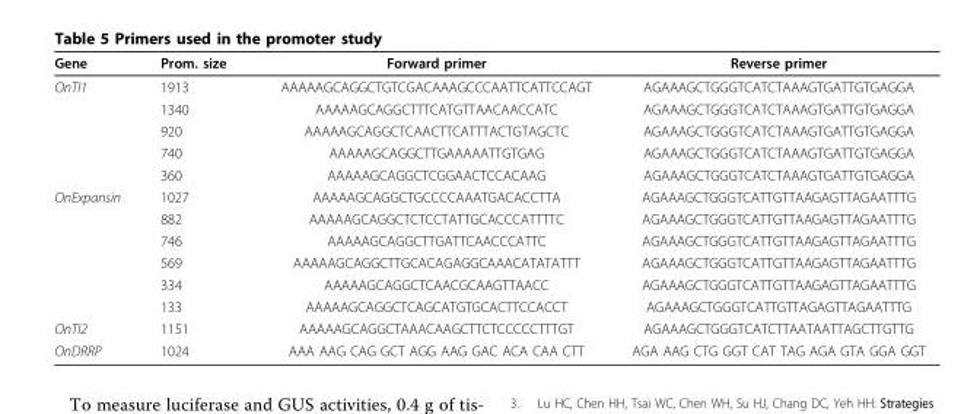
<table><thead><tr><td>Gene</td><td>Prom. size</td><td>Forward primer</td><td>Reverse primer</td></tr></thead><tbody><tr><td rowspan="5">OnTI1</td><td>1913</td><td>AAAAAGCAGGCTGTCGACAAAGCCCAATTCATTCCAGT</td><td>AGAAAGCTGGGTCATCTAAAGTGATTGTGAGGA</td></tr><tr><td>1340</td><td>AAAAAGCAGGCTTTCATGTTAACAACCATC</td><td>AGAAAGCTGGGTCATCTAAAGTGATTGTGAGGA</td></tr><tr><td>920</td><td>AAAAAGCAGGCTCAACTTCATTTACTGTAGCTC</td><td>AGAAAGCTGGGTCATCTAAAGTGATTGTGAGGA</td></tr><tr><td>740</td><td>AAAAAGCAGGCTTGAAAAATTGTGAG</td><td>AGAAAGCTGGGTCATCTAAAGTGATTGTGAGGA</td></tr><tr><td>360</td><td>AAAAAGCAGGCTCGGAACTCCACAAG</td><td>AGAAAGCTGGGTCATCTAAAGTGATTGTGAGGA</td></tr><tr><td rowspan="6">OnExpansin</td><td>1027</td><td>AAAAAGCAGGCTGCCCCAAATGACACCTTA</td><td>AGAAAGCTGGGTCATTGTTAAGAGTTAGAATTTG</td></tr><tr><td>882</td><td>AAAAAGCAGGCTCTCCTATTGCACCCATTTTC</td><td>AGAAAGCTGGGTCATTGTTAAGAGTTAGAATTTG</td></tr><tr><td>746</td><td>AAAAAGCAGGCTTGATTCAACCCATTC</td><td>AGAAAGCTGGGTCATTGTTAAGAGTTAGAATTTG</td></tr><tr><td>569</td><td>AAAAAGCAGGCTTGCACAGAGGCAAACATATATTT</td><td>AGAAAGCTGGGTCATTGTTAAGAGTTAGAATTTG</td></tr><tr><td>334</td><td>AAAAAGCAGGCTCAACGCAAGTTAACC</td><td>AGAAAGCTGGGTCATTGTTAAGAGTTAGAATTTG</td></tr><tr><td>133</td><td>AAAAAGCAGGCTCAGCATGTGCACTTCCACCT</td><td>AGAAAGCTGGGTCATTGTTAGAGTTAGAATTTG</td></tr><tr><td>OnTI2</td><td>1151</td><td>AAAAAGCAGGCTAAACAAGCTTCTCCCCCTTTGT</td><td>AGAAAGCTGGGTCATCTTAATAATTAGCTTGTTG</td></tr><tr><td>OnDRRP</td><td>1024</td><td>AAA AAG CAG GCT AGG AAG GAC ACA CAA CTT</td><td>AGA AAG CTG GGT CAT TAG AGA GTA GGA GGT</td></tr></tbody></table>